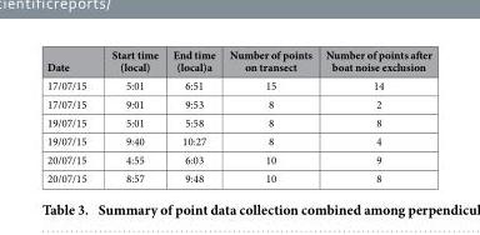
<table><thead><tr><td>Date</td><td>Start time (local)</td><td>End time (local)a</td><td>Number of points on transect</td><td>Number of points after boat noise exclusion</td></tr></thead><tbody><tr><td>17/07/15</td><td>5:01</td><td>6:51</td><td>15</td><td>14</td></tr><tr><td>17/07/15</td><td>9:01</td><td>9:53</td><td>8</td><td>2</td></tr><tr><td>19/07/15</td><td>5:01</td><td>5:58</td><td>8</td><td>8</td></tr><tr><td>19/07/15</td><td>9:40</td><td>10:27</td><td>8</td><td>4</td></tr><tr><td>20/07/15</td><td>4:55</td><td>6:03</td><td>10</td><td>9</td></tr><tr><td>20/07/15</td><td>8:57</td><td>9:48</td><td>10</td><td>8</td></tr></tbody></table>